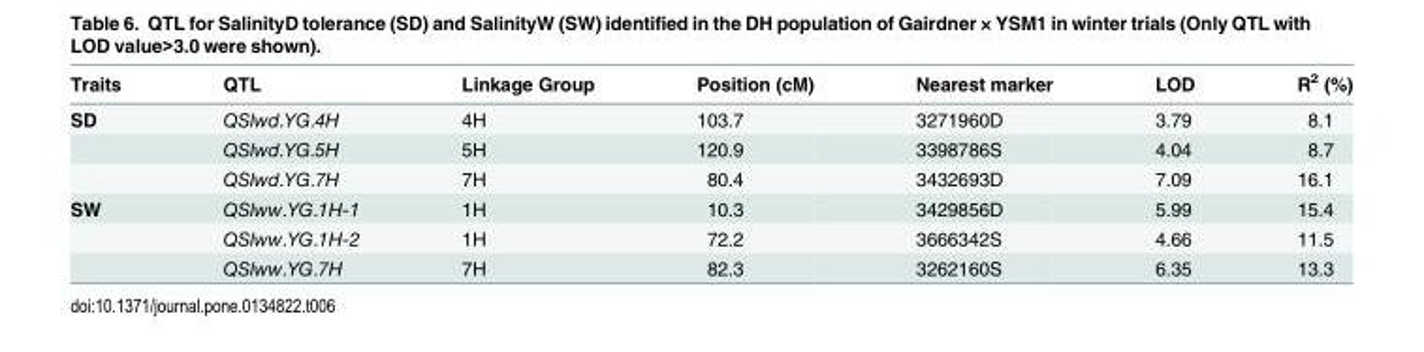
<table><thead><tr><td>Traits</td><td>QTL</td><td>Linkage Group</td><td>Position (cM)</td><td>Nearest marker</td><td>LOD</td><td>R<sup>2</sup> (%)</td></tr></thead><tbody><tr><td rowspan="3">SD</td><td>QSlwd.YG.4H</td><td>4H</td><td>103.7</td><td>3271960D</td><td>3.79</td><td>8.1</td></tr><tr><td>QSlwd.YG.5H</td><td>5H</td><td>120.9</td><td>3398786S</td><td>4.04</td><td>8.7</td></tr><tr><td>QSlwd.YG.7H</td><td>7H</td><td>80.4</td><td>3432693D</td><td>7.09</td><td>16.1</td></tr><tr><td rowspan="3">SW</td><td>QSlww.YG.1H-1</td><td>1H</td><td>10.3</td><td>3429856D</td><td>5.99</td><td>15.4</td></tr><tr><td>QSlww.YG.1H-2</td><td>1H</td><td>72.2</td><td>3666342S</td><td>4.66</td><td>11.5</td></tr><tr><td>QSlww.YG.7H</td><td>7H</td><td>82.3</td><td>3262160S</td><td>6.35</td><td>13.3</td></tr></tbody></table>